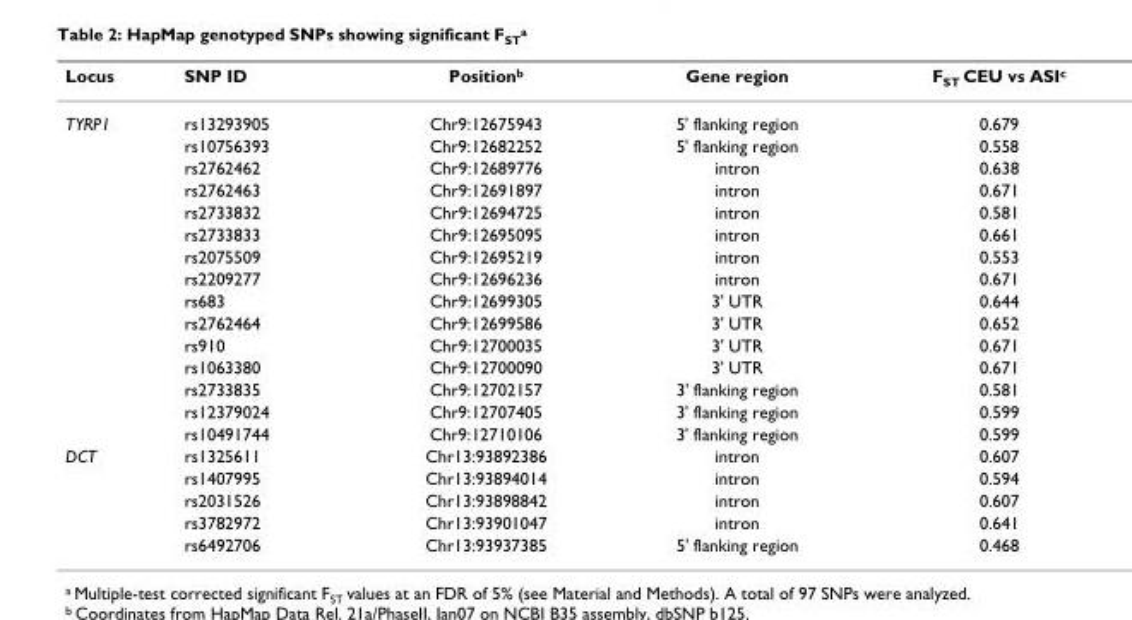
<table><thead><tr><td>Locus</td><td>SNP ID</td><td>Position<sup>b</sup></td><td>Gene region</td><td>F<sub>ST</sub> CEU vs ASI<sup>c</sup></td></tr></thead><tbody><tr><td rowspan="15">TYRP1</td><td>rs13293905</td><td>Chr9:12675943</td><td>5&#x27; flanking region</td><td>0.679</td></tr><tr><td>rs10756393</td><td>Chr9:12682252</td><td>5&#x27; flanking region</td><td>0.558</td></tr><tr><td>rs2762462</td><td>Chr9:12689776</td><td>intron</td><td>0.638</td></tr><tr><td>rs2762463</td><td>Chr9:12691897</td><td>intron</td><td>0.671</td></tr><tr><td>rs2733832</td><td>Chr9:12694725</td><td>intron</td><td>0.581</td></tr><tr><td>rs2733833</td><td>Chr9:12695095</td><td>intron</td><td>0.661</td></tr><tr><td>rs2075509</td><td>Chr9:12695219</td><td>intron</td><td>0.553</td></tr><tr><td>rs2209277</td><td>Chr9:12696236</td><td>intron</td><td>0.671</td></tr><tr><td>rs683</td><td>Chr9:12699305</td><td>3&#x27; UTR</td><td>0.644</td></tr><tr><td>rs2762464</td><td>Chr9:12699586</td><td>3&#x27; UTR</td><td>0.652</td></tr><tr><td>rs910</td><td>Chr9:12700035</td><td>3&#x27; UTR</td><td>0.671</td></tr><tr><td>rs1063380</td><td>Chr9:12700090</td><td>3&#x27; UTR</td><td>0.671</td></tr><tr><td>rs2733835</td><td>Chr9:12702157</td><td>3&#x27; flanking region</td><td>0.581</td></tr><tr><td>rs12379024</td><td>Chr9:12707405</td><td>3&#x27; flanking region</td><td>0.599</td></tr><tr><td>rs10491744</td><td>Chr9:12710106</td><td>3&#x27; flanking region</td><td>0.599</td></tr><tr><td rowspan="5">DCT</td><td>rs1325611</td><td>Chr13:93892386</td><td>intron</td><td>0.607</td></tr><tr><td>rs1407995</td><td>Chr13:93894014</td><td>intron</td><td>0.594</td></tr><tr><td>rs2031526</td><td>Chr13:93898842</td><td>intron</td><td>0.607</td></tr><tr><td>rs3782972</td><td>Chr13:93901047</td><td>intron</td><td>0.641</td></tr><tr><td>rs6492706</td><td>Chr13:93937385</td><td>5&#x27; flanking region</td><td>0.468</td></tr></tbody></table>